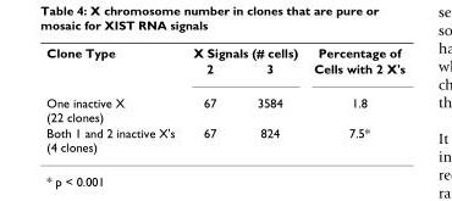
<table><tbody><tr><td rowspan="2">Clone Type</td><td colspan="2">X Signals (# cells)</td><td>Percentage of</td></tr><tr><td>2</td><td>3</td><td>Cells with 2 X&#x27;s</td></tr><tr><td>One inactive X (22 clones)</td><td>67</td><td>3584</td><td>1.8</td></tr><tr><td>Both 1 and 2 inactive X&#x27;s (4 clones)</td><td>67</td><td>824</td><td>7.5*</td></tr></tbody></table>